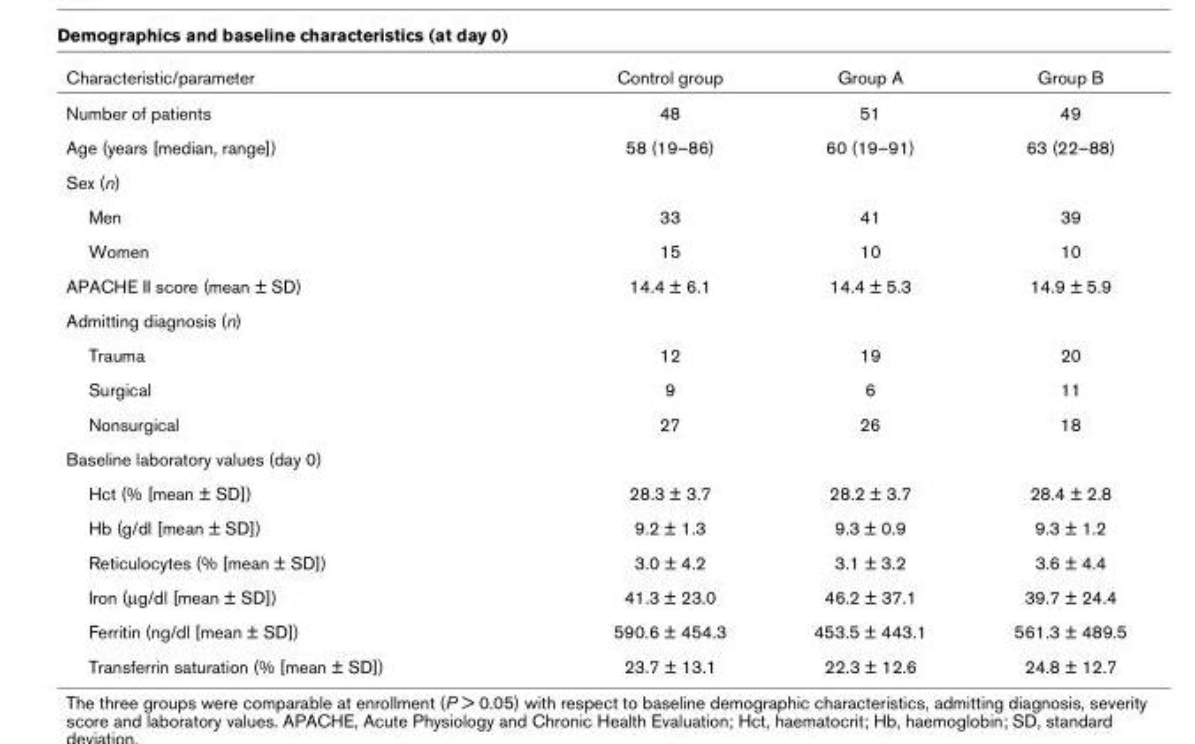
<table><thead><tr><td>Characteristic/parameter</td><td>Control group</td><td>Group A</td><td>Group B</td></tr></thead><tbody><tr><td>Number of patients</td><td>48</td><td>51</td><td>49</td></tr><tr><td>Age (years [median, range])</td><td>58 (19–86)</td><td>60 (19–91)</td><td>63 (22–88)</td></tr><tr><td colspan="4">Sex (n)</td></tr><tr><td>Men</td><td>33</td><td>41</td><td>39</td></tr><tr><td>Women</td><td>15</td><td>10</td><td>10</td></tr><tr><td>APACHE II score (mean ± SD)</td><td>14.4 ± 6.1</td><td>14.4 ± 5.3</td><td>14.9 ± 5.9</td></tr><tr><td colspan="4">Admitting diagnosis (n)</td></tr><tr><td>Trauma</td><td>12</td><td>19</td><td>20</td></tr><tr><td>Surgical</td><td>9</td><td>6</td><td>11</td></tr><tr><td>Nonsurgical</td><td>27</td><td>26</td><td>18</td></tr><tr><td colspan="4">Baseline laboratory values (day 0)</td></tr><tr><td>Hct (% [mean ± SD])</td><td>28.3 ± 3.7</td><td>28.2 ± 3.7</td><td>28.4 ± 2.8</td></tr><tr><td>Hb (g/dl [mean ± SD])</td><td>9.2 ± 1.3</td><td>9.3 ± 0.9</td><td>9.3 ± 1.2</td></tr><tr><td>Reticulocytes (% [mean ± SD])</td><td>3.0 ± 4.2</td><td>3.1 ± 3.2</td><td>3.6 ± 4.4</td></tr><tr><td>Iron (µg/dl [mean ± SD])</td><td>41.3 ± 23.0</td><td>46.2 ± 37.1</td><td>39.7 ± 24.4</td></tr><tr><td>Ferritin (ng/dl [mean ± SD])</td><td>590.6 ± 454.3</td><td>453.5 ± 443.1</td><td>561.3 ± 489.5</td></tr><tr><td>Transferrin saturation (% [mean ± SD])</td><td>23.7 ± 13.1</td><td>22.3 ± 12.6</td><td>24.8 ± 12.7</td></tr></tbody></table>